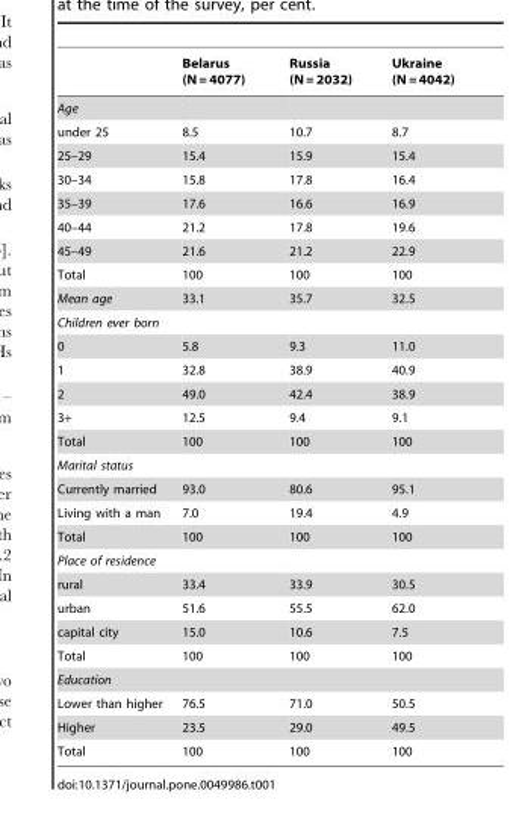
<table><thead><tr><td></td><td>Belarus (N = 4077)</td><td>Russia (N = 2032)</td><td>Ukraine (N = 4042)</td></tr></thead><tbody><tr><td colspan="4">Age</td></tr><tr><td>under 25</td><td>8.5</td><td>10.7</td><td>8.7</td></tr><tr><td>25–29</td><td>15.4</td><td>15.9</td><td>15.4</td></tr><tr><td>30–34</td><td>15.8</td><td>17.8</td><td>16.4</td></tr><tr><td>35–39</td><td>17.6</td><td>16.6</td><td>16.9</td></tr><tr><td>40–44</td><td>21.2</td><td>17.8</td><td>19.6</td></tr><tr><td>45–49</td><td>21.6</td><td>21.2</td><td>22.9</td></tr><tr><td>Total</td><td>100</td><td>100</td><td>100</td></tr><tr><td>Mean age</td><td>33.1</td><td>35.7</td><td>32.5</td></tr><tr><td colspan="4">Children ever born</td></tr><tr><td>0</td><td>5.8</td><td>9.3</td><td>11.0</td></tr><tr><td>1</td><td>32.8</td><td>38.9</td><td>40.9</td></tr><tr><td>2</td><td>49.0</td><td>42.4</td><td>38.9</td></tr><tr><td>3+</td><td>12.5</td><td>9.4</td><td>9.1</td></tr><tr><td>Total</td><td>100</td><td>100</td><td>100</td></tr><tr><td colspan="4">Marital status</td></tr><tr><td>Currently married</td><td>93.0</td><td>80.6</td><td>95.1</td></tr><tr><td>Living with a man</td><td>7.0</td><td>19.4</td><td>4.9</td></tr><tr><td>Total</td><td>100</td><td>100</td><td>100</td></tr><tr><td colspan="4">Place of residence</td></tr><tr><td>rural</td><td>33.4</td><td>33.9</td><td>30.5</td></tr><tr><td>urban</td><td>51.6</td><td>55.5</td><td>62.0</td></tr><tr><td>capital city</td><td>15.0</td><td>10.6</td><td>7.5</td></tr><tr><td>Total</td><td>100</td><td>100</td><td>100</td></tr><tr><td colspan="4">Education</td></tr><tr><td>Lower than higher</td><td>76.5</td><td>71.0</td><td>50.5</td></tr><tr><td>Higher</td><td>23.5</td><td>29.0</td><td>49.5</td></tr><tr><td>Total</td><td>100</td><td>100</td><td>100</td></tr></tbody></table>